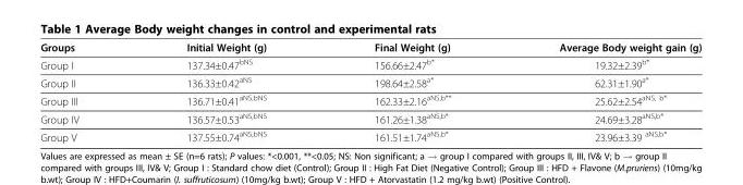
<table><thead><tr><td>Groups</td><td>Initial Weight (g)</td><td>Final Weight (g)</td><td>Average Body weight gain (g)</td></tr></thead><tbody><tr><td>Group I</td><td>137.34±0.47<sup>bNS</sup></td><td>156.66±2.47<sup>b*</sup></td><td>19.32±2.39<sup>b*</sup></td></tr><tr><td>Group II</td><td>136.33±0.42<sup>aNS</sup></td><td>198.64±2.58<sup>a*</sup></td><td>62.31±1.90<sup>a*</sup></td></tr><tr><td>Group III</td><td>136.71±0.41<sup>aNS,bNS</sup></td><td>162.33±2.16<sup>aNS,b**</sup></td><td>25.62±2.54<sup>aNS, b*</sup></td></tr><tr><td>Group IV</td><td>136.57±0.53<sup>aNS,bNS</sup></td><td>161.26±1.38<sup>aNS,b*</sup></td><td>24.69±3.28<sup>aNS,b*</sup></td></tr><tr><td>Group V</td><td>137.55±0.74<sup>aNS,bNS</sup></td><td>161.51±1.74<sup>aNS,b*</sup></td><td>23.96±3.39 <sup>aNS,b*</sup></td></tr></tbody></table>